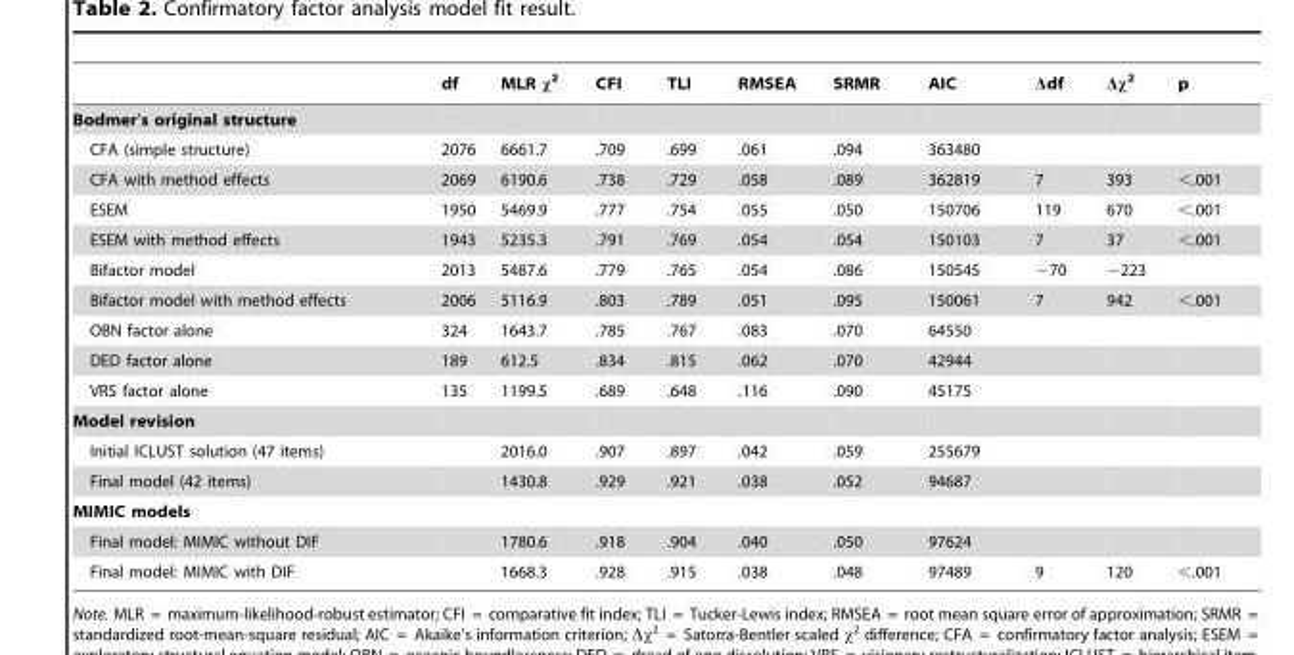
<table><thead><tr><td></td><td>df</td><td>MLR χ<sup>2</sup></td><td>CFI</td><td>TLI</td><td>RMSEA</td><td>SRMR</td><td>AIC</td><td>Δdf</td><td>Δχ<sup>2</sup></td><td>p</td></tr></thead><tbody><tr><td colspan="11">Bodmer’s original structure</td></tr><tr><td>CFA (simple structure)</td><td>2076</td><td>6661.7</td><td>.709</td><td>.699</td><td>.061</td><td>.094</td><td>363480</td><td></td><td></td><td></td></tr><tr><td>CFA with method effects</td><td>2069</td><td>6190.6</td><td>.738</td><td>.729</td><td>.058</td><td>.089</td><td>362819</td><td>7</td><td>393</td><td>&lt;.001</td></tr><tr><td>ESEM</td><td>1950</td><td>5469.9</td><td>.777</td><td>.754</td><td>.055</td><td>.050</td><td>150706</td><td>119</td><td>670</td><td>&lt;.001</td></tr><tr><td>ESEM with method effects</td><td>1943</td><td>5235.3</td><td>.791</td><td>.769</td><td>.054</td><td>.054</td><td>150103</td><td>7</td><td>37</td><td>&lt;.001</td></tr><tr><td>Bifactor model</td><td>2013</td><td>5487.6</td><td>.779</td><td>.765</td><td>.054</td><td>.086</td><td>150545</td><td>−70</td><td>−223</td><td></td></tr><tr><td>Bifactor model with method effects</td><td>2006</td><td>5116.9</td><td>.803</td><td>.789</td><td>.051</td><td>.095</td><td>150061</td><td>7</td><td>942</td><td>&lt;.001</td></tr><tr><td>OBN factor alone</td><td>324</td><td>1643.7</td><td>.785</td><td>.767</td><td>.083</td><td>.070</td><td>64550</td><td></td><td></td><td></td></tr><tr><td>DED factor alone</td><td>189</td><td>612.5</td><td>.834</td><td>.815</td><td>.062</td><td>.070</td><td>42944</td><td></td><td></td><td></td></tr><tr><td>VRS factor alone</td><td>135</td><td>1199.5</td><td>.689</td><td>.648</td><td>.116</td><td>.090</td><td>45175</td><td></td><td></td><td></td></tr><tr><td colspan="11">Model revision</td></tr><tr><td>Initial ICLUST solution (47 items)</td><td></td><td>2016.0</td><td>.907</td><td>.897</td><td>.042</td><td>.059</td><td>255679</td><td></td><td></td><td></td></tr><tr><td>Final model (42 items)</td><td></td><td>1430.8</td><td>.929</td><td>.921</td><td>.038</td><td>.052</td><td>94687</td><td></td><td></td><td></td></tr><tr><td colspan="11">MIMIC models</td></tr><tr><td>Final model: MIMIC without DIF</td><td></td><td>1780.6</td><td>.918</td><td>.904</td><td>.040</td><td>.050</td><td>97624</td><td></td><td></td><td></td></tr><tr><td>Final model: MIMIC with DIF</td><td></td><td>1668.3</td><td>.928</td><td>.915</td><td>.038</td><td>.048</td><td>97489</td><td>9</td><td>120</td><td>&lt;.001</td></tr></tbody></table>